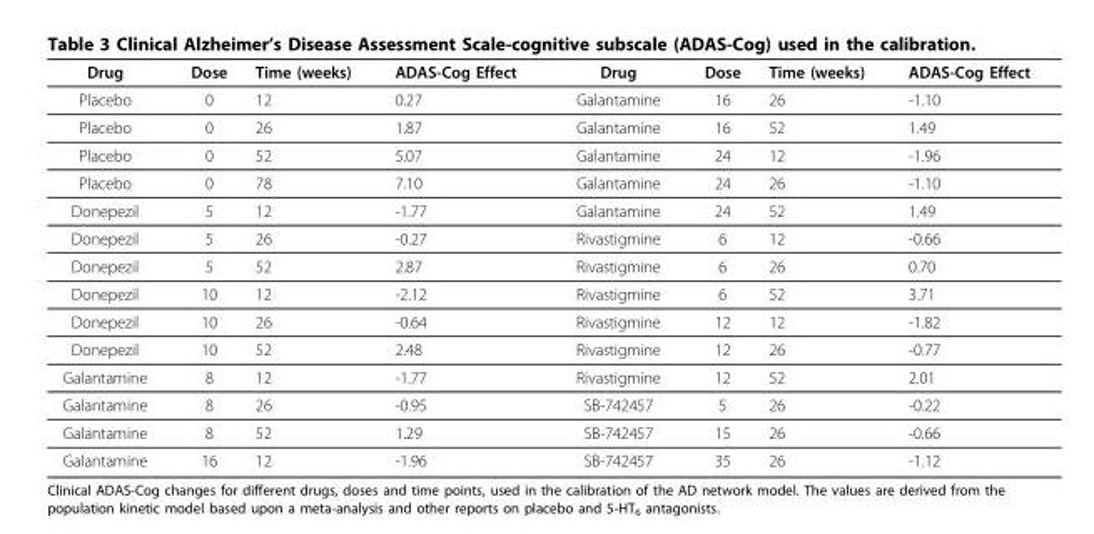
<table><thead><tr><td>Drug</td><td>Dose</td><td>Time (weeks)</td><td>ADAS-Cog Effect</td><td>Drug</td><td>Dose</td><td>Time (weeks)</td><td>ADAS-Cog Effect</td></tr></thead><tbody><tr><td>Placebo</td><td>0</td><td>12</td><td>0.27</td><td>Galantamine</td><td>16</td><td>26</td><td>-1.10</td></tr><tr><td>Placebo</td><td>0</td><td>26</td><td>1.87</td><td>Galantamine</td><td>16</td><td>52</td><td>1.49</td></tr><tr><td>Placebo</td><td>0</td><td>52</td><td>5.07</td><td>Galantamine</td><td>24</td><td>12</td><td>-1.96</td></tr><tr><td>Placebo</td><td>0</td><td>78</td><td>7.10</td><td>Galantamine</td><td>24</td><td>26</td><td>-1.10</td></tr><tr><td>Donepezil</td><td>5</td><td>12</td><td>-1.77</td><td>Galantamine</td><td>24</td><td>52</td><td>1.49</td></tr><tr><td>Donepezil</td><td>5</td><td>26</td><td>-0.27</td><td>Rivastigmine</td><td>6</td><td>12</td><td>-0.66</td></tr><tr><td>Donepezil</td><td>5</td><td>52</td><td>2.87</td><td>Rivastigmine</td><td>6</td><td>26</td><td>0.70</td></tr><tr><td>Donepezil</td><td>10</td><td>12</td><td>-2.12</td><td>Rivastigmine</td><td>6</td><td>52</td><td>3.71</td></tr><tr><td>Donepezil</td><td>10</td><td>26</td><td>-0.64</td><td>Rivastigmine</td><td>12</td><td>12</td><td>-1.82</td></tr><tr><td>Donepezil</td><td>10</td><td>52</td><td>2.48</td><td>Rivastigmine</td><td>12</td><td>26</td><td>-0.77</td></tr><tr><td>Galantamine</td><td>8</td><td>12</td><td>-1.77</td><td>Rivastigmine</td><td>12</td><td>52</td><td>2.01</td></tr><tr><td>Galantamine</td><td>8</td><td>26</td><td>-0.95</td><td>SB-742457</td><td>5</td><td>26</td><td>-0.22</td></tr><tr><td>Galantamine</td><td>8</td><td>52</td><td>1.29</td><td>SB-742457</td><td>15</td><td>26</td><td>-0.66</td></tr><tr><td>Galantamine</td><td>16</td><td>12</td><td>-1.96</td><td>SB-742457</td><td>35</td><td>26</td><td>-1.12</td></tr></tbody></table>